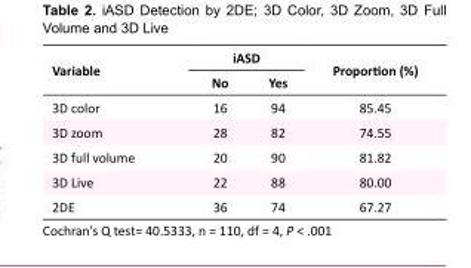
<table><tbody><tr><td rowspan="2">Variable</td><td colspan="2">iASD</td><td rowspan="2">Proportion (%)</td></tr><tr><td>No</td><td>Yes</td></tr><tr><td>3D color</td><td>16</td><td>94</td><td>85.45</td></tr><tr><td>3D zoom</td><td>28</td><td>82</td><td>74.55</td></tr><tr><td>3D full volume</td><td>20</td><td>90</td><td>81.82</td></tr><tr><td>3D Live</td><td>22</td><td>88</td><td>80.00</td></tr><tr><td>2DE</td><td>36</td><td>74</td><td>67.27</td></tr></tbody></table>